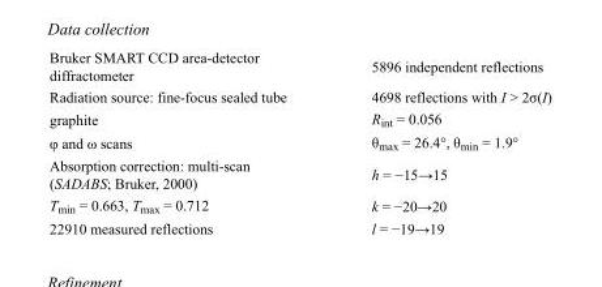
<table><tbody><tr><td>Bruker SMART CCD area-detector diffractometer</td><td>5896 independent reflections</td></tr><tr><td>Radiation source: fine-focus sealed tube</td><td>4698 reflections with I &gt; 2σ(I)</td></tr><tr><td>graphite</td><td>R<sub>int</sub> = 0.056</td></tr><tr><td>φ and ω scans</td><td>θ<sub>max</sub> = 26.4°, θ<sub>min</sub> = 1.9°</td></tr><tr><td>Absorption correction: multi-scan (SADABS; Bruker, 2000)</td><td>h = −15→15</td></tr><tr><td>T<sub>min</sub> = 0.663, T<sub>max</sub> = 0.712</td><td>k = −20→20</td></tr><tr><td>22910 measured reflections</td><td>l = −19→19</td></tr></tbody></table>